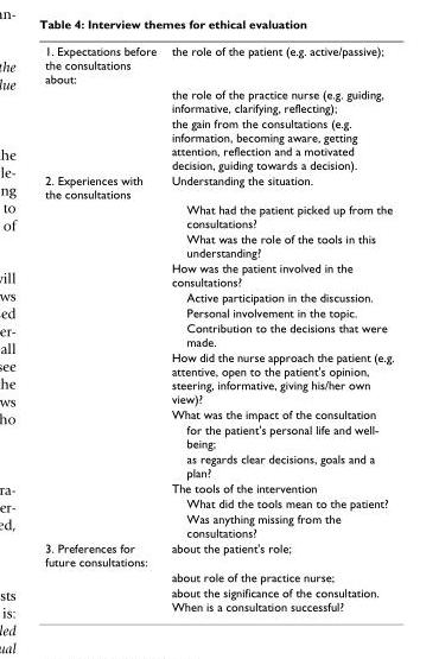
<table><tbody><tr><td rowspan="3">1. Expectations before the consultations about:</td><td>the role of the patient (e.g. active/passive);</td></tr><tr><td>the role of the practice nurse (e.g. guiding, informative, clarifying, reflecting);</td></tr><tr><td>the gain from the consultations (e.g. information, becoming aware, getting attention, reflection and a motivated decision, guiding towards a decision).</td></tr><tr><td rowspan="14">2. Experiences with the consultations</td><td>Understanding the situation.</td></tr><tr><td>What had the patient picked up from the consultations?</td></tr><tr><td>What was the role of the tools in this understanding?</td></tr><tr><td>How was the patient involved in the consultations?</td></tr><tr><td>Active participation in the discussion.</td></tr><tr><td>Personal involvement in the topic.</td></tr><tr><td>Contribution to the decisions that were made.</td></tr><tr><td>How did the nurse approach the patient (e.g. attentive, open to the patient&#x27;s opinion, steering, informative, giving his/her own view)?</td></tr><tr><td>What was the impact of the consultation</td></tr><tr><td>for the patient&#x27;s personal life and well- being;</td></tr><tr><td>as regards clear decisions, goals and a plan?</td></tr><tr><td>The tools of the intervention</td></tr><tr><td>What did the tools mean to the patient?</td></tr><tr><td>Was anything missing from the consultations?</td></tr><tr><td rowspan="3">3. Preferences for future consultations:</td><td>about the patient&#x27;s role;</td></tr><tr><td>about role of the practice nurse;</td></tr><tr><td>about the significance of the consultation. When is a consultation successful?</td></tr></tbody></table>